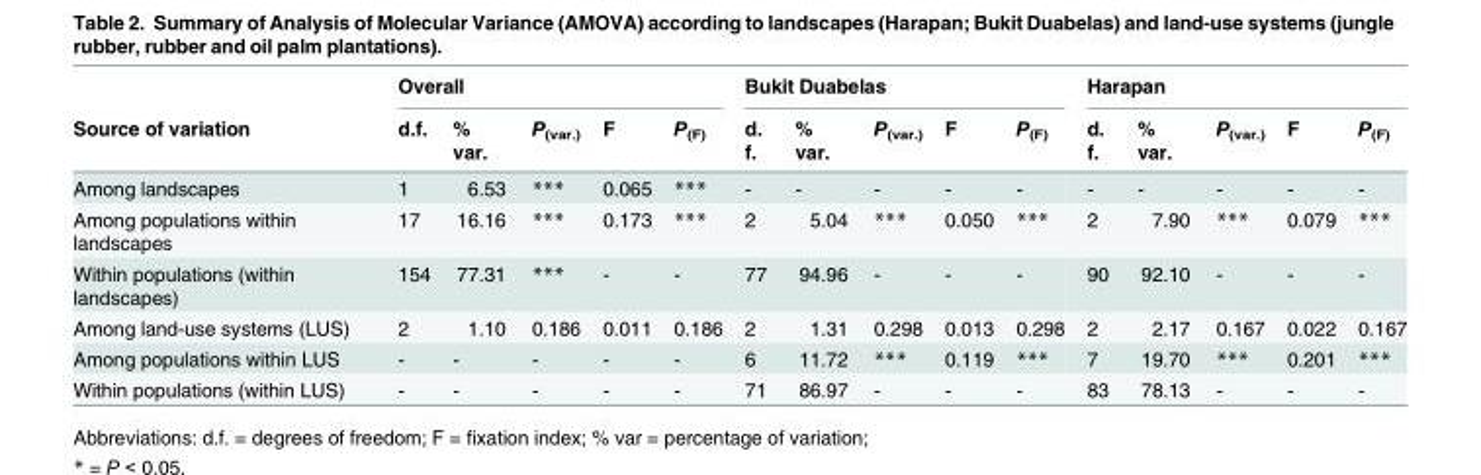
<table><thead><tr><td rowspan="2">Source of variation</td><td colspan="5">Overall</td><td colspan="5">Bukit Duabelas</td><td colspan="5">Harapan</td></tr><tr><td>d.f.</td><td>% var.</td><td>P<sub>(var.)</sub></td><td>F</td><td>P<sub>(F)</sub></td><td>d. f.</td><td>% var.</td><td>P<sub>(var.)</sub></td><td>F</td><td>P<sub>(F)</sub></td><td>d. f.</td><td>% var.</td><td>P<sub>(var.)</sub></td><td>F</td><td>P<sub>(F)</sub></td></tr></thead><tbody><tr><td>Among landscapes</td><td>1</td><td>6.53</td><td>***</td><td>0.065</td><td>***</td><td>-</td><td>-</td><td>-</td><td>-</td><td>-</td><td>-</td><td>-</td><td>-</td><td>-</td><td>-</td></tr><tr><td>Among populations within landscapes</td><td>17</td><td>16.16</td><td>***</td><td>0.173</td><td>***</td><td>2</td><td>5.04</td><td>***</td><td>0.050</td><td>***</td><td>2</td><td>7.90</td><td>***</td><td>0.079</td><td>***</td></tr><tr><td>Within populations (within landscapes)</td><td>154</td><td>77.31</td><td>***</td><td>-</td><td>-</td><td>77</td><td>94.96</td><td>-</td><td>-</td><td>-</td><td>90</td><td>92.10</td><td>-</td><td>-</td><td>-</td></tr><tr><td>Among land-use systems (LUS)</td><td>2</td><td>1.10</td><td>0.186</td><td>0.011</td><td>0.186</td><td>2</td><td>1.31</td><td>0.298</td><td>0.013</td><td>0.298</td><td>2</td><td>2.17</td><td>0.167</td><td>0.022</td><td>0.167</td></tr><tr><td>Among populations within LUS</td><td>-</td><td>-</td><td>-</td><td>-</td><td>-</td><td>6</td><td>11.72</td><td>***</td><td>0.119</td><td>***</td><td>7</td><td>19.70</td><td>***</td><td>0.201</td><td>***</td></tr><tr><td>Within populations (within LUS)</td><td>-</td><td>-</td><td>-</td><td>-</td><td>-</td><td>71</td><td>86.97</td><td>-</td><td>-</td><td>-</td><td>83</td><td>78.13</td><td>-</td><td>-</td><td>-</td></tr></tbody></table>